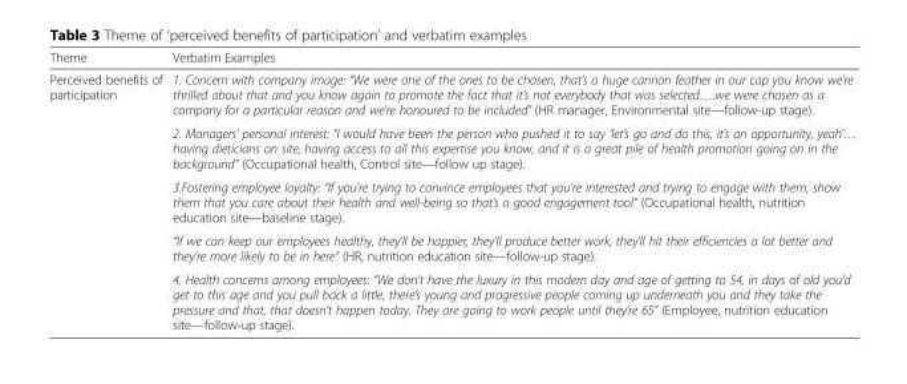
<table><thead><tr><td>Theme</td><td>Verbatim Examples</td></tr></thead><tbody><tr><td rowspan="5">Perceived benefits of participation</td><td>1. Concern with company image: “We were one of the ones to be chosen, that’s a huge cannon feather in our cap you know we’re thrilled about that and you know again to promote the fact that it’s not everybody that was selected….we were chosen as a company for a particular reason and we’re honoured to be included” (HR manager, Environmental site—follow-up stage).</td></tr><tr><td>2. Managers’ personal interest: “I would have been the person who pushed it to say ‘let’s go and do this, it’s an opportunity, yeah’… having dieticians on site, having access to all this expertise you know, and it is a great pile of health promotion going on in the background” (Occupational health, Control site—follow up stage).</td></tr><tr><td>3.Fostering employee loyalty: “If you’re trying to convince employees that you’re interested and trying to engage with them, show them that you care about their health and well-being so that’s a good engagement tool” (Occupational health, nutrition education site—baseline stage).</td></tr><tr><td>“If we can keep our employees healthy, they’ll be happier, they’ll produce better work, they’ll hit their efficiencies a lot better and they’re more likely to be in here” (HR, nutrition education site—follow-up stage).</td></tr><tr><td>4. Health concerns among employees: “We don’t have the luxury in this modern day and age of getting to 54, in days of old you’d get to this age and you pull back a little, there’s young and progressive people coming up underneath you and they take the pressure and that, that doesn’t happen today. They are going to work people until they’re 65” (Employee, nutrition education site—follow-up stage).</td></tr></tbody></table>